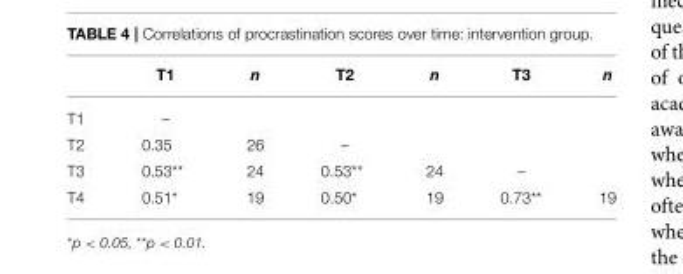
<table><thead><tr><td></td><td>T1</td><td>n</td><td>T2</td><td>n</td><td>T3</td><td>n</td></tr></thead><tbody><tr><td>T1</td><td>–</td><td></td><td></td><td></td><td></td><td></td></tr><tr><td>T2</td><td>0.35</td><td>26</td><td>–</td><td></td><td></td><td></td></tr><tr><td>T3</td><td>0.53**</td><td>24</td><td>0.53**</td><td>24</td><td>–</td><td></td></tr><tr><td>T4</td><td>0.51*</td><td>19</td><td>0.50*</td><td>19</td><td>0.73**</td><td>19</td></tr></tbody></table>